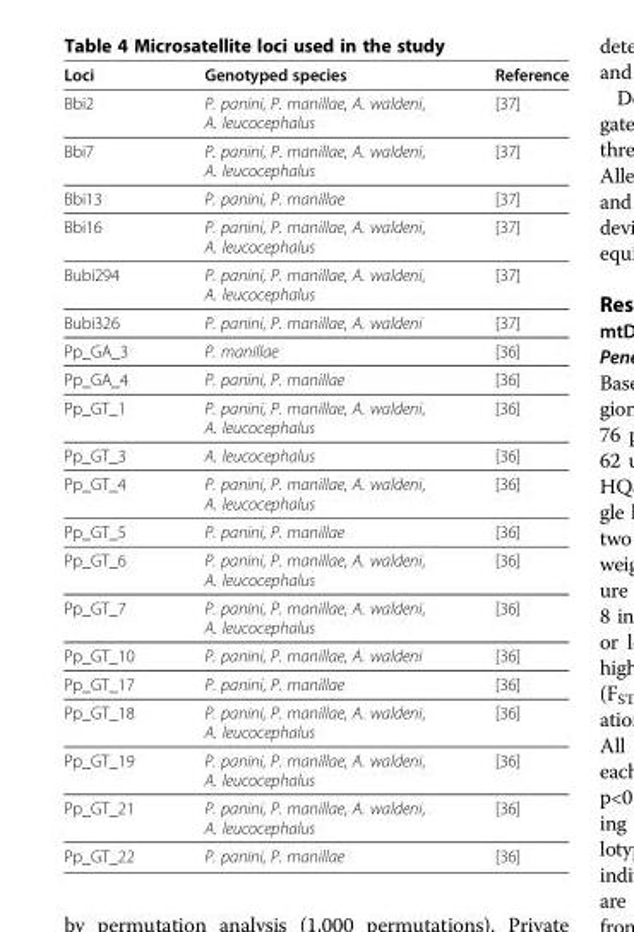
<table><thead><tr><td>Loci</td><td>Genotyped species</td><td>Reference</td></tr></thead><tbody><tr><td>Bbi2</td><td>P. panini, P. manillae, A. waldeni, A. leucocephalus</td><td>[37]</td></tr><tr><td>Bbi7</td><td>P. panini, P. manillae, A. waldeni, A. leucocephalus</td><td>[37]</td></tr><tr><td>Bbi13</td><td>P. panini, P. manillae</td><td>[37]</td></tr><tr><td>Bbi16</td><td>P. panini, P. manillae, A. waldeni, A. leucocephalus</td><td>[37]</td></tr><tr><td>Bubi294</td><td>P. panini, P. manillae, A. waldeni, A. leucocephalus</td><td>[37]</td></tr><tr><td>Bubi326</td><td>P. panini, P. manillae, A. waldeni</td><td>[37]</td></tr><tr><td>Pp_GA_3</td><td>P. manillae</td><td>[36]</td></tr><tr><td>Pp_GA_4</td><td>P. panini, P. manillae</td><td>[36]</td></tr><tr><td>Pp_GT_1</td><td>P. panini, P. manillae, A. waldeni, A. leucocephalus</td><td>[36]</td></tr><tr><td>Pp_GT_3</td><td>A. leucocephalus</td><td>[36]</td></tr><tr><td>Pp_GT_4</td><td>P. panini, P. manillae, A. waldeni, A. leucocephalus</td><td>[36]</td></tr><tr><td>Pp_GT_5</td><td>P. panini, P. manillae</td><td>[36]</td></tr><tr><td>Pp_GT_6</td><td>P. panini, P. manillae, A. waldeni, A. leucocephalus</td><td>[36]</td></tr><tr><td>Pp_GT_7</td><td>P. panini, P. manillae, A. waldeni, A. leucocephalus</td><td>[36]</td></tr><tr><td>Pp_GT_10</td><td>P. panini, P. manillae, A. waldeni</td><td>[36]</td></tr><tr><td>Pp_GT_17</td><td>P. panini, P. manillae</td><td>[36]</td></tr><tr><td>Pp_GT_18</td><td>P. panini, P. manillae, A. waldeni, A. leucocephalus</td><td>[36]</td></tr><tr><td>Pp_GT_19</td><td>P. panini, P. manillae, A. waldeni, A. leucocephalus</td><td>[36]</td></tr><tr><td>Pp_GT_21</td><td>P. panini, P. manillae, A. waldeni, A. leucocephalus</td><td>[36]</td></tr><tr><td>Pp_GT_22</td><td>P. panini, P. manillae</td><td>[36]</td></tr></tbody></table>